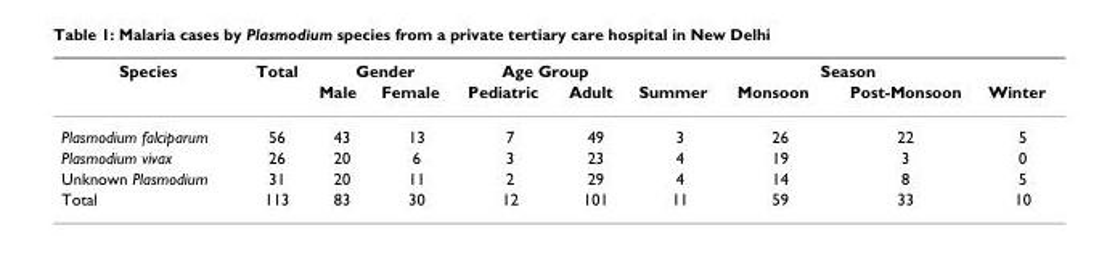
<table><thead><tr><td rowspan="2">Species</td><td rowspan="2">Total</td><td colspan="2">Gender</td><td colspan="2">Age Group</td><td colspan="4">Season</td></tr><tr><td>Male</td><td>Female</td><td>Pediatric</td><td>Adult</td><td>Summer</td><td>Monsoon</td><td>Post-Monsoon</td><td>Winter</td></tr></thead><tbody><tr><td>Plasmodium falciparum</td><td>56</td><td>43</td><td>13</td><td>7</td><td>49</td><td>3</td><td>26</td><td>22</td><td>5</td></tr><tr><td>Plasmodium vivax</td><td>26</td><td>20</td><td>6</td><td>3</td><td>23</td><td>4</td><td>19</td><td>3</td><td>0</td></tr><tr><td>Unknown Plasmodium</td><td>31</td><td>20</td><td>11</td><td>2</td><td>29</td><td>4</td><td>14</td><td>8</td><td>5</td></tr><tr><td>Total</td><td>113</td><td>83</td><td>30</td><td>12</td><td>101</td><td>11</td><td>59</td><td>33</td><td>10</td></tr></tbody></table>